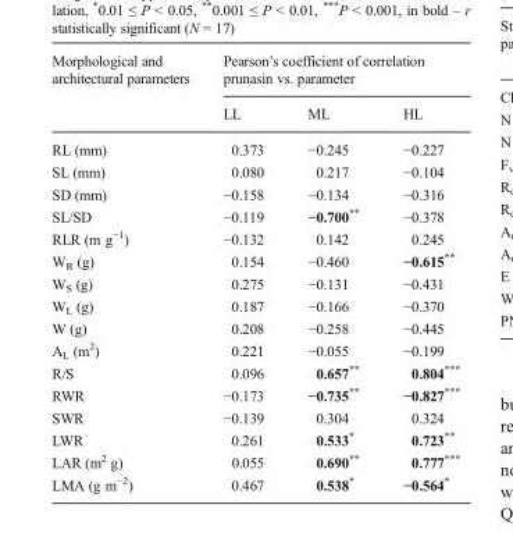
<table><thead><tr><td rowspan="2">Morphological and architectural parameters</td><td colspan="3">Pearson’s coefficient of correlation prunasin vs. parameter</td></tr><tr><td>LL</td><td>ML</td><td>HL</td></tr></thead><tbody><tr><td>RL (mm)</td><td>0.373</td><td>−0.245</td><td>−0.227</td></tr><tr><td>SL (mm)</td><td>0.080</td><td>0.217</td><td>−0.104</td></tr><tr><td>SD (mm)</td><td>−0.158</td><td>−0.134</td><td>−0.316</td></tr><tr><td>SL/SD</td><td>−0.119</td><td>−0.700**</td><td>−0.378</td></tr><tr><td>RLR (m g<sup>−1</sup>)</td><td>−0.132</td><td>0.142</td><td>0.245</td></tr><tr><td>W<sub>R</sub> (g)</td><td>0.154</td><td>−0.460</td><td>−0.615**</td></tr><tr><td>W<sub>S</sub> (g)</td><td>0.275</td><td>−0.131</td><td>−0.431</td></tr><tr><td>W<sub>L</sub> (g)</td><td>0.187</td><td>−0.166</td><td>−0.370</td></tr><tr><td>W (g)</td><td>0.208</td><td>−0.258</td><td>−0.445</td></tr><tr><td>A<sub>L</sub> (m<sup>2</sup>)</td><td>0.221</td><td>−0.055</td><td>−0.199</td></tr><tr><td>R/S</td><td>0.096</td><td>0.657**</td><td>0.804***</td></tr><tr><td>RWR</td><td>−0.173</td><td>−0.735**</td><td>−0.827***</td></tr><tr><td>SWR</td><td>−0.139</td><td>0.304</td><td>0.324</td></tr><tr><td>LWR</td><td>0.261</td><td>0.533*</td><td>0.723**</td></tr><tr><td>LAR (m<sup>2</sup> g)</td><td>0.055</td><td>0.690**</td><td>0.777***</td></tr><tr><td>LMA (g m<sup>−2</sup>)</td><td>0.467</td><td>0.538*</td><td>−0.564*</td></tr></tbody></table>